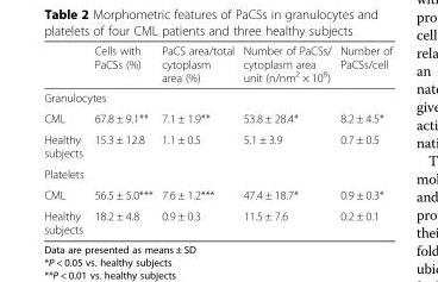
<table><thead><tr><td></td><td>Cells with PaCSs (%)</td><td>PaCS area/total cytoplasm area (%)</td><td>Number of PaCSs/ cytoplasm area unit (n/nm<sup>2</sup> × 10<sup>8</sup>)</td><td>Number of PaCSs/cell</td></tr></thead><tbody><tr><td colspan="5">Granulocytes</td></tr><tr><td>CML</td><td>67.8 ± 9.1**</td><td>7.1 ± 1.9**</td><td>53.8 ± 28.4*</td><td>8.2 ± 4.5*</td></tr><tr><td>Healthy subjects</td><td>15.3 ± 12.8</td><td>1.1 ± 0.5</td><td>5.1 ± 3.9</td><td>0.7 ± 0.5</td></tr><tr><td colspan="5">Platelets</td></tr><tr><td>CML</td><td>56.5 ± 5.0***</td><td>7.6 ± 1.2***</td><td>47.4 ± 18.7*</td><td>0.9 ± 0.3*</td></tr><tr><td>Healthy subjects</td><td>18.2 ± 4.8</td><td>0.9 ± 0.3</td><td>11.5 ± 7.6</td><td>0.2 ± 0.1</td></tr></tbody></table>